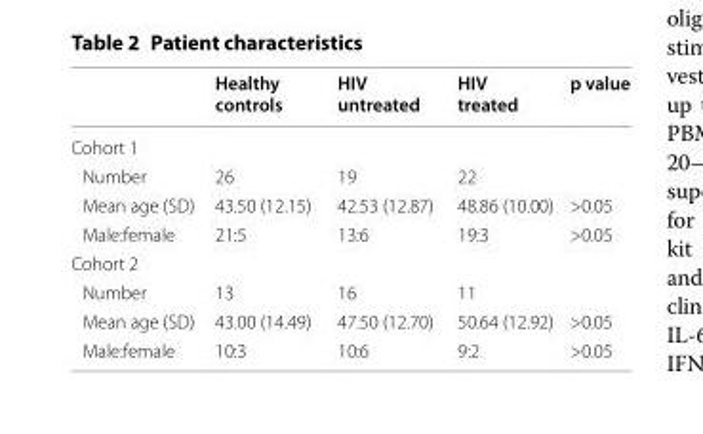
<table><thead><tr><td></td><td>Healthy controls</td><td>HIV untreated</td><td>HIV treated</td><td>p value</td></tr></thead><tbody><tr><td colspan="5">Cohort 1</td></tr><tr><td>Number</td><td>26</td><td>19</td><td>22</td><td></td></tr><tr><td>Mean age (SD)</td><td>43.50 (12.15)</td><td>42.53 (12.87)</td><td>48.86 (10.00)</td><td>&gt;0.05</td></tr><tr><td>Male:female</td><td>21:5</td><td>13:6</td><td>19:3</td><td>&gt;0.05</td></tr><tr><td colspan="5">Cohort 2</td></tr><tr><td>Number</td><td>13</td><td>16</td><td>11</td><td></td></tr><tr><td>Mean age (SD)</td><td>43.00 (14.49)</td><td>47.50 (12.70)</td><td>50.64 (12.92)</td><td>&gt;0.05</td></tr><tr><td>Male:female</td><td>10:3</td><td>10:6</td><td>9:2</td><td>&gt;0.05</td></tr></tbody></table>